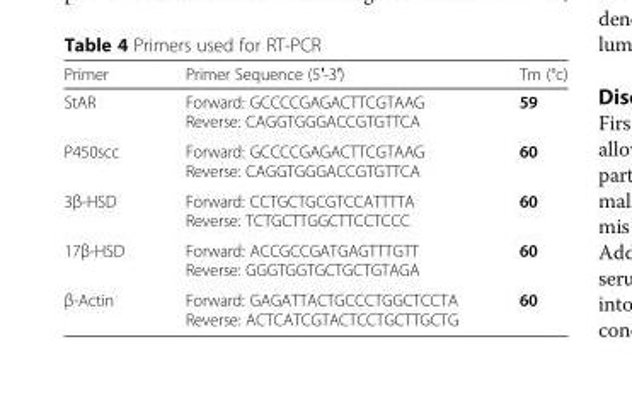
<table><thead><tr><td>Primer</td><td>Primer Sequence (5′-3′)</td><td>Tm (°c)</td></tr></thead><tbody><tr><td>StAR</td><td>Forward: GCCCCGAGACTTCGTAAG Reverse: CAGGTGGGACCGTGTTCA</td><td>59</td></tr><tr><td>P450scc</td><td>Forward: GCCCCGAGACTTCGTAAG Reverse: CAGGTGGGACCGTGTTCA</td><td>60</td></tr><tr><td>3β-HSD</td><td>Forward: CCTGCTGCGTCCATTTTA Reverse: TCTGCTTGGCTTCCTCCC</td><td>60</td></tr><tr><td>17β-HSD</td><td>Forward: ACCGCCGATGAGTTTGTT Reverse: GGGTGGTGCTGCTGTAGA</td><td>60</td></tr><tr><td>β-Actin</td><td>Forward: GAGATTACTGCCCTGGCTCCTA Reverse: ACTCATCGTACTCCTGCTTGCTG</td><td>60</td></tr></tbody></table>